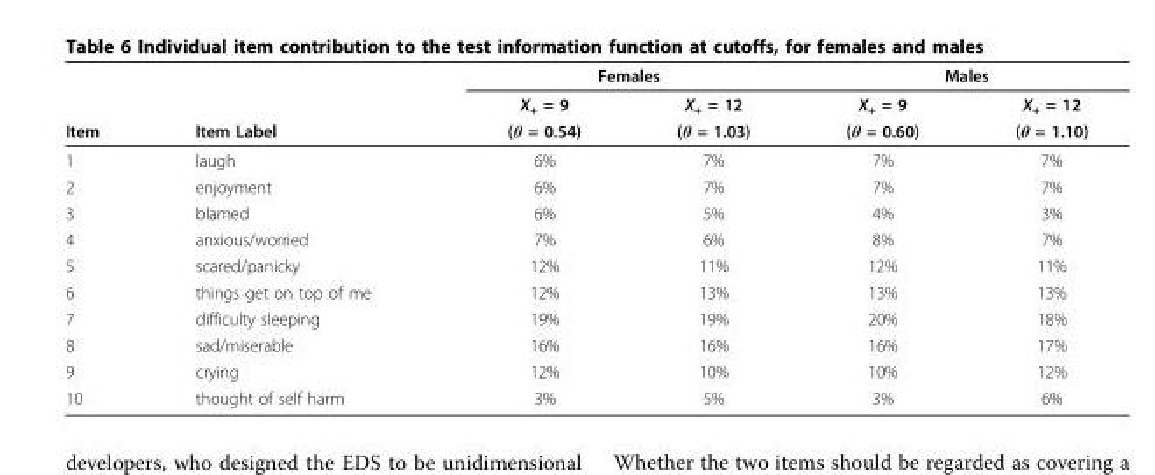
<table><thead><tr><td rowspan="3">Item</td><td rowspan="3">Item Label</td><td colspan="2">Females</td><td colspan="2">Males</td></tr><tr><td rowspan="2">X<sub>+</sub> = 9 (θ = 0.54)</td><td rowspan="2">X<sub>+</sub> = 12 (θ = 1.03)</td><td rowspan="2">X<sub>+</sub> = 9 (θ = 0.60)</td><td rowspan="2">X<sub>+</sub> = 12 (θ = 1.10)</td></tr><tr></tr></thead><tbody><tr><td>1</td><td>laugh</td><td>6%</td><td>7%</td><td>7%</td><td>7%</td></tr><tr><td>2</td><td>enjoyment</td><td>6%</td><td>7%</td><td>7%</td><td>7%</td></tr><tr><td>3</td><td>blamed</td><td>6%</td><td>5%</td><td>4%</td><td>3%</td></tr><tr><td>4</td><td>anxious/worried</td><td>7%</td><td>6%</td><td>8%</td><td>7%</td></tr><tr><td>5</td><td>scared/panicky</td><td>12%</td><td>11%</td><td>12%</td><td>11%</td></tr><tr><td>6</td><td>things get on top of me</td><td>12%</td><td>13%</td><td>13%</td><td>13%</td></tr><tr><td>7</td><td>difficulty sleeping</td><td>19%</td><td>19%</td><td>20%</td><td>18%</td></tr><tr><td>8</td><td>sad/miserable</td><td>16%</td><td>16%</td><td>16%</td><td>17%</td></tr><tr><td>9</td><td>crying</td><td>12%</td><td>10%</td><td>10%</td><td>12%</td></tr><tr><td>10</td><td>thought of self harm</td><td>3%</td><td>5%</td><td>3%</td><td>6%</td></tr></tbody></table>